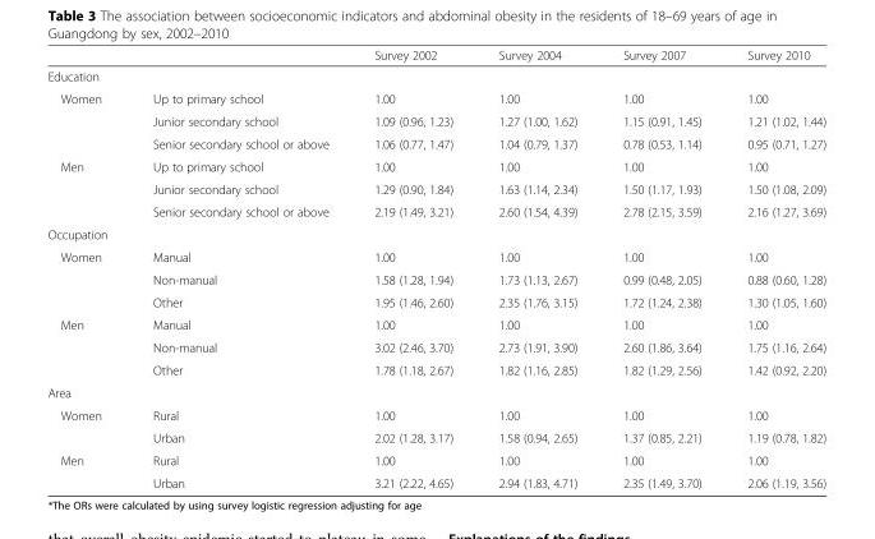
<table><thead><tr><td></td><td></td><td>Survey 2002</td><td>Survey 2004</td><td>Survey 2007</td><td>Survey 2010</td></tr></thead><tbody><tr><td colspan="6">Education</td></tr><tr><td rowspan="3">Women</td><td>Up to primary school</td><td>1.00</td><td>1.00</td><td>1.00</td><td>1.00</td></tr><tr><td>Junior secondary school</td><td>1.09 (0.96, 1.23)</td><td>1.27 (1.00, 1.62)</td><td>1.15 (0.91, 1.45)</td><td>1.21 (1.02, 1.44)</td></tr><tr><td>Senior secondary school or above</td><td>1.06 (0.77, 1.47)</td><td>1.04 (0.79, 1.37)</td><td>0.78 (0.53, 1.14)</td><td>0.95 (0.71, 1.27)</td></tr><tr><td rowspan="3">Men</td><td>Up to primary school</td><td>1.00</td><td>1.00</td><td>1.00</td><td>1.00</td></tr><tr><td>Junior secondary school</td><td>1.29 (0.90, 1.84)</td><td>1.63 (1.14, 2.34)</td><td>1.50 (1.17, 1.93)</td><td>1.50 (1.08, 2.09)</td></tr><tr><td>Senior secondary school or above</td><td>2.19 (1.49, 3.21)</td><td>2.60 (1.54, 4.39)</td><td>2.78 (2.15, 3.59)</td><td>2.16 (1.27, 3.69)</td></tr><tr><td colspan="6">Occupation</td></tr><tr><td rowspan="3">Women</td><td>Manual</td><td>1.00</td><td>1.00</td><td>1.00</td><td>1.00</td></tr><tr><td>Non-manual</td><td>1.58 (1.28, 1.94)</td><td>1.73 (1.13, 2.67)</td><td>0.99 (0.48, 2.05)</td><td>0.88 (0.60, 1.28)</td></tr><tr><td>Other</td><td>1.95 (1.46, 2.60)</td><td>2.35 (1.76, 3.15)</td><td>1.72 (1.24, 2.38)</td><td>1.30 (1.05, 1.60)</td></tr><tr><td rowspan="3">Men</td><td>Manual</td><td>1.00</td><td>1.00</td><td>1.00</td><td>1.00</td></tr><tr><td>Non-manual</td><td>3.02 (2.46, 3.70)</td><td>2.73 (1.91, 3.90)</td><td>2.60 (1.86, 3.64)</td><td>1.75 (1.16, 2.64)</td></tr><tr><td>Other</td><td>1.78 (1.18, 2.67)</td><td>1.82 (1.16, 2.85)</td><td>1.82 (1.29, 2.56)</td><td>1.42 (0.92, 2.20)</td></tr><tr><td colspan="6">Area</td></tr><tr><td rowspan="2">Women</td><td>Rural</td><td>1.00</td><td>1.00</td><td>1.00</td><td>1.00</td></tr><tr><td>Urban</td><td>2.02 (1.28, 3.17)</td><td>1.58 (0.94, 2.65)</td><td>1.37 (0.85, 2.21)</td><td>1.19 (0.78, 1.82)</td></tr><tr><td rowspan="2">Men</td><td>Rural</td><td>1.00</td><td>1.00</td><td>1.00</td><td>1.00</td></tr><tr><td>Urban</td><td>3.21 (2.22, 4.65)</td><td>2.94 (1.83, 4.71)</td><td>2.35 (1.49, 3.70)</td><td>2.06 (1.19, 3.56)</td></tr></tbody></table>